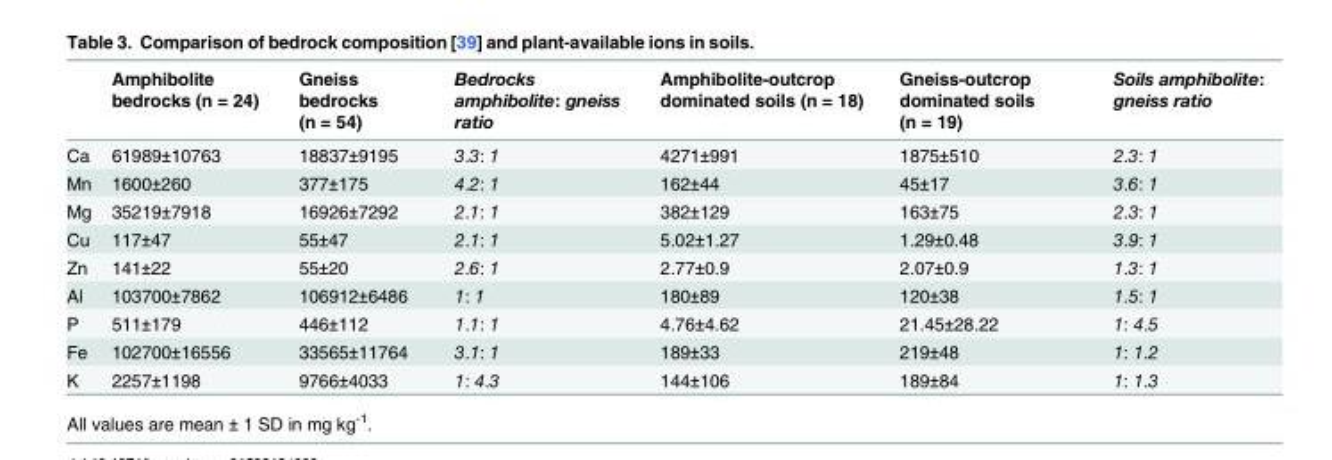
<table><thead><tr><td></td><td>Amphibolite bedrocks (n = 24)</td><td>Gneiss bedrocks (n = 54)</td><td>Bedrocks amphibolite: gneiss ratio</td><td>Amphibolite-outcrop dominated soils (n = 18)</td><td>Gneiss-outcrop dominated soils (n = 19)</td><td>Soils amphibolite: gneiss ratio</td></tr></thead><tbody><tr><td>Ca</td><td>61989±10763</td><td>18837±9195</td><td>3.3: 1</td><td>4271±991</td><td>1875±510</td><td>2.3: 1</td></tr><tr><td>Mn</td><td>1600±260</td><td>377±175</td><td>4.2: 1</td><td>162±44</td><td>45±17</td><td>3.6: 1</td></tr><tr><td>Mg</td><td>35219±7918</td><td>16926±7292</td><td>2.1: 1</td><td>382±129</td><td>163±75</td><td>2.3: 1</td></tr><tr><td>Cu</td><td>117±47</td><td>55±47</td><td>2.1: 1</td><td>5.02±1.27</td><td>1.29±0.48</td><td>3.9: 1</td></tr><tr><td>Zn</td><td>141±22</td><td>55±20</td><td>2.6: 1</td><td>2.77±0.9</td><td>2.07±0.9</td><td>1.3: 1</td></tr><tr><td>Al</td><td>103700±7862</td><td>106912±6486</td><td>1: 1</td><td>180±89</td><td>120±38</td><td>1.5: 1</td></tr><tr><td>P</td><td>511±179</td><td>446±112</td><td>1.1: 1</td><td>4.76±4.62</td><td>21.45±28.22</td><td>1: 4.5</td></tr><tr><td>Fe</td><td>102700±16556</td><td>33565±11764</td><td>3.1: 1</td><td>189±33</td><td>219±48</td><td>1: 1.2</td></tr><tr><td>K</td><td>2257±1198</td><td>9766±4033</td><td>1: 4.3</td><td>144±106</td><td>189±84</td><td>1: 1.3</td></tr></tbody></table>